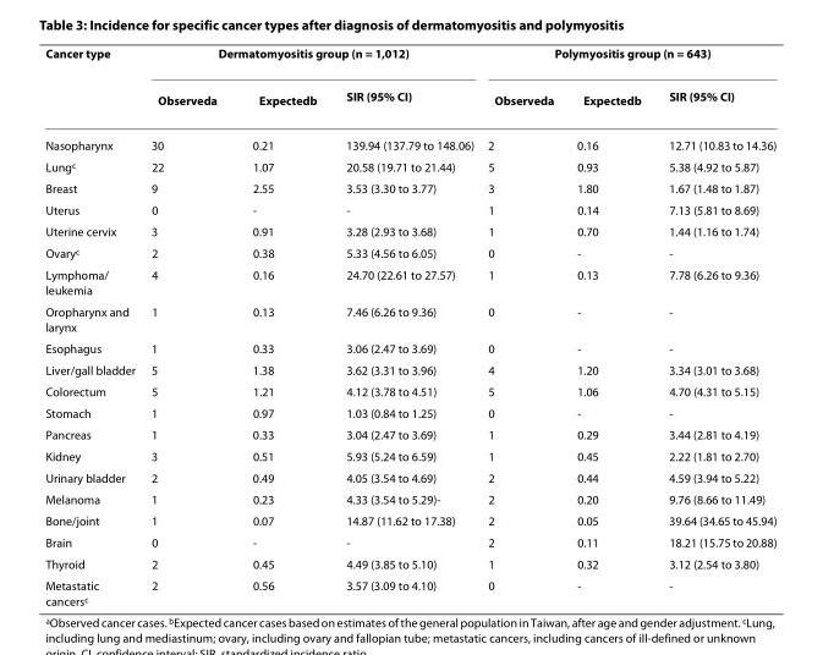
<table><thead><tr><td rowspan="2">Cancer type</td><td colspan="3">Dermatomyositis group (n = 1,012)</td><td colspan="3">Polymyositis group (n = 643)</td></tr><tr><td>Observed<sup>a</sup></td><td>Expected<sup>b</sup></td><td>SIR (95% CI)</td><td>Observed<sup>a</sup></td><td>Expected<sup>b</sup></td><td>SIR (95% CI)</td></tr></thead><tbody><tr><td>Nasopharynx</td><td>30</td><td>0.21</td><td>139.94 (137.79 to 148.06)</td><td>2</td><td>0.16</td><td>12.71 (10.83 to 14.36)</td></tr><tr><td>Lung<sup>c</sup></td><td>22</td><td>1.07</td><td>20.58 (19.71 to 21.44)</td><td>5</td><td>0.93</td><td>5.38 (4.92 to 5.87)</td></tr><tr><td>Breast</td><td>9</td><td>2.55</td><td>3.53 (3.30 to 3.77)</td><td>3</td><td>1.80</td><td>1.67 (1.48 to 1.87)</td></tr><tr><td>Uterus</td><td>0</td><td>-</td><td>-</td><td>1</td><td>0.14</td><td>7.13 (5.81 to 8.69)</td></tr><tr><td>Uterine cervix</td><td>3</td><td>0.91</td><td>3.28 (2.93 to 3.68)</td><td>1</td><td>0.70</td><td>1.44 (1.16 to 1.74)</td></tr><tr><td>Ovary<sup>c</sup></td><td>2</td><td>0.38</td><td>5.33 (4.56 to 6.05)</td><td>0</td><td>-</td><td>-</td></tr><tr><td>Lymphoma/ leukemia</td><td>4</td><td>0.16</td><td>24.70 (22.61 to 27.57)</td><td>1</td><td>0.13</td><td>7.78 (6.26 to 9.36)</td></tr><tr><td>Oropharynx and larynx</td><td>1</td><td>0.13</td><td>7.46 (6.26 to 9.36)</td><td>0</td><td>-</td><td>-</td></tr><tr><td>Esophagus</td><td>1</td><td>0.33</td><td>3.06 (2.47 to 3.69)</td><td>0</td><td>-</td><td>-</td></tr><tr><td>Liver/gall bladder</td><td>5</td><td>1.38</td><td>3.62 (3.31 to 3.96)</td><td>4</td><td>1.20</td><td>3.34 (3.01 to 3.68)</td></tr><tr><td>Colorectum</td><td>5</td><td>1.21</td><td>4.12 (3.78 to 4.51)</td><td>5</td><td>1.06</td><td>4.70 (4.31 to 5.15)</td></tr><tr><td>Stomach</td><td>1</td><td>0.97</td><td>1.03 (0.84 to 1.25)</td><td>0</td><td>-</td><td>-</td></tr><tr><td>Pancreas</td><td>1</td><td>0.33</td><td>3.04 (2.47 to 3.69)</td><td>1</td><td>0.29</td><td>3.44 (2.81 to 4.19)</td></tr><tr><td>Kidney</td><td>3</td><td>0.51</td><td>5.93 (5.24 to 6.59)</td><td>1</td><td>0.45</td><td>2.22 (1.81 to 2.70)</td></tr><tr><td>Urinary bladder</td><td>2</td><td>0.49</td><td>4.05 (3.54 to 4.69)</td><td>2</td><td>0.44</td><td>4.59 (3.94 to 5.22)</td></tr><tr><td>Melanoma</td><td>1</td><td>0.23</td><td>4.33 (3.54 to 5.29)-</td><td>2</td><td>0.20</td><td>9.76 (8.66 to 11.49)</td></tr><tr><td>Bone/joint</td><td>1</td><td>0.07</td><td>14.87 (11.62 to 17.38)</td><td>2</td><td>0.05</td><td>39.64 (34.65 to 45.94)</td></tr><tr><td>Brain</td><td>0</td><td>-</td><td>-</td><td>2</td><td>0.11</td><td>18.21 (15.75 to 20.88)</td></tr><tr><td>Thyroid</td><td>2</td><td>0.45</td><td>4.49 (3.85 to 5.10)</td><td>1</td><td>0.32</td><td>3.12 (2.54 to 3.80)</td></tr><tr><td>Metastatic cancers<sup>c</sup></td><td>2</td><td>0.56</td><td>3.57 (3.09 to 4.10)</td><td>0</td><td>-</td><td>-</td></tr></tbody></table>